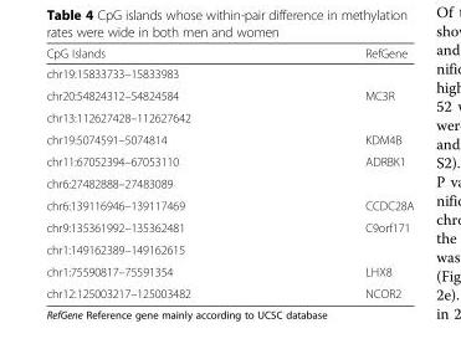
<table><thead><tr><td>CpG Islands</td><td>RefGene</td></tr></thead><tbody><tr><td colspan="2">chr19:15833733–15833983</td></tr><tr><td>chr20:54824312–54824584</td><td>MC3R</td></tr><tr><td colspan="2">chr13:112627428–112627642</td></tr><tr><td>chr19:5074591–5074814</td><td>KDM4B</td></tr><tr><td>chr11:67052394–67053110</td><td>ADRBK1</td></tr><tr><td colspan="2">chr6:27482888–27483089</td></tr><tr><td>chr6:139116946–139117469</td><td>CCDC28A</td></tr><tr><td>chr9:135361992–135362481</td><td>C9orf171</td></tr><tr><td colspan="2">chr1:149162389–149162615</td></tr><tr><td>chr1:75590817–75591354</td><td>LHX8</td></tr><tr><td>chr12:125003217–125003482</td><td>NCOR2</td></tr></tbody></table>